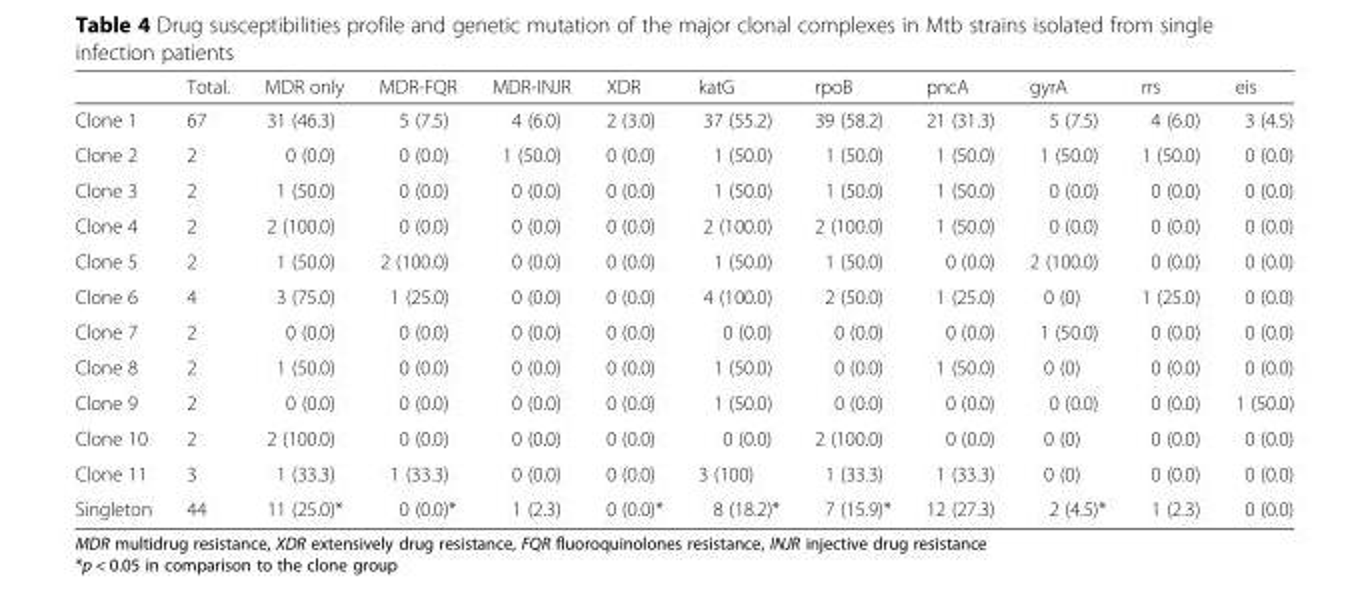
<table><thead><tr><td></td><td>Total.</td><td>MDR only</td><td>MDR-FQR</td><td>MDR-INJR</td><td>XDR</td><td>katG</td><td>rpoB</td><td>pncA</td><td>gyrA</td><td>rrs</td><td>eis</td></tr></thead><tbody><tr><td>Clone 1</td><td>67</td><td>31 (46.3)</td><td>5 (7.5)</td><td>4 (6.0)</td><td>2 (3.0)</td><td>37 (55.2)</td><td>39 (58.2)</td><td>21 (31.3)</td><td>5 (7.5)</td><td>4 (6.0)</td><td>3 (4.5)</td></tr><tr><td>Clone 2</td><td>2</td><td>0 (0.0)</td><td>0 (0.0)</td><td>1 (50.0)</td><td>0 (0.0)</td><td>1 (50.0)</td><td>1 (50.0)</td><td>1 (50.0)</td><td>1 (50.0)</td><td>1 (50.0)</td><td>0 (0.0)</td></tr><tr><td>Clone 3</td><td>2</td><td>1 (50.0)</td><td>0 (0.0)</td><td>0 (0.0)</td><td>0 (0.0)</td><td>1 (50.0)</td><td>1 (50.0)</td><td>1 (50.0)</td><td>0 (0.0)</td><td>0 (0.0)</td><td>0 (0.0)</td></tr><tr><td>Clone 4</td><td>2</td><td>2 (100.0)</td><td>0 (0.0)</td><td>0 (0.0)</td><td>0 (0.0)</td><td>2 (100.0)</td><td>2 (100.0)</td><td>1 (50.0)</td><td>0 (0.0)</td><td>0 (0.0)</td><td>0 (0.0)</td></tr><tr><td>Clone 5</td><td>2</td><td>1 (50.0)</td><td>2 (100.0)</td><td>0 (0.0)</td><td>0 (0.0)</td><td>1 (50.0)</td><td>1 (50.0)</td><td>0 (0.0)</td><td>2 (100.0)</td><td>0 (0.0)</td><td>0 (0.0)</td></tr><tr><td>Clone 6</td><td>4</td><td>3 (75.0)</td><td>1 (25.0)</td><td>0 (0.0)</td><td>0 (0.0)</td><td>4 (100.0)</td><td>2 (50.0)</td><td>1 (25.0)</td><td>0 (0)</td><td>1 (25.0)</td><td>0 (0.0)</td></tr><tr><td>Clone 7</td><td>2</td><td>0 (0.0)</td><td>0 (0.0)</td><td>0 (0.0)</td><td>0 (0.0)</td><td>0 (0.0)</td><td>0 (0.0)</td><td>0 (0.0)</td><td>1 (50.0)</td><td>0 (0.0)</td><td>0 (0.0)</td></tr><tr><td>Clone 8</td><td>2</td><td>1 (50.0)</td><td>0 (0.0)</td><td>0 (0.0)</td><td>0 (0.0)</td><td>1 (50.0)</td><td>0 (0.0)</td><td>1 (50.0)</td><td>0 (0)</td><td>0 (0.0)</td><td>0 (0.0)</td></tr><tr><td>Clone 9</td><td>2</td><td>0 (0.0)</td><td>0 (0.0)</td><td>0 (0.0)</td><td>0 (0.0)</td><td>1 (50.0)</td><td>0 (0.0)</td><td>0 (0.0)</td><td>0 (0.0)</td><td>0 (0.0)</td><td>1 (50.0)</td></tr><tr><td>Clone 10</td><td>2</td><td>2 (100.0)</td><td>0 (0.0)</td><td>0 (0.0)</td><td>0 (0.0)</td><td>0 (0.0)</td><td>2 (100.0)</td><td>0 (0.0)</td><td>0 (0)</td><td>0 (0.0)</td><td>0 (0.0)</td></tr><tr><td>Clone 11</td><td>3</td><td>1 (33.3)</td><td>1 (33.3)</td><td>0 (0.0)</td><td>0 (0.0)</td><td>3 (100)</td><td>1 (33.3)</td><td>1 (33.3)</td><td>0 (0)</td><td>0 (0.0)</td><td>0 (0.0)</td></tr><tr><td>Singleton</td><td>44</td><td>11 (25.0)*</td><td>0 (0.0)*</td><td>1 (2.3)</td><td>0 (0.0)*</td><td>8 (18.2)*</td><td>7 (15.9)*</td><td>12 (27.3)</td><td>2 (4.5)*</td><td>1 (2.3)</td><td>0 (0.0)</td></tr></tbody></table>